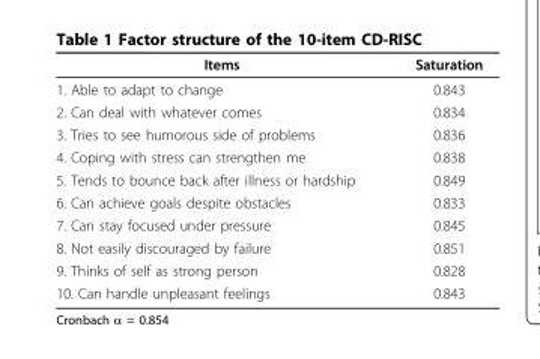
<table><thead><tr><td>Items</td><td>Saturation</td></tr></thead><tbody><tr><td>1. Able to adapt to change</td><td>0.843</td></tr><tr><td>2. Can deal with whatever comes</td><td>0.834</td></tr><tr><td>3. Tries to see humorous side of problems</td><td>0.836</td></tr><tr><td>4. Coping with stress can strengthen me</td><td>0.838</td></tr><tr><td>5. Tends to bounce back after illness or hardship</td><td>0.849</td></tr><tr><td>6. Can achieve goals despite obstacles</td><td>0.833</td></tr><tr><td>7. Can stay focused under pressure</td><td>0.845</td></tr><tr><td>8. Not easily discouraged by failure</td><td>0.851</td></tr><tr><td>9. Thinks of self as strong person</td><td>0.828</td></tr><tr><td>10. Can handle unpleasant feelings</td><td>0.843</td></tr></tbody></table>